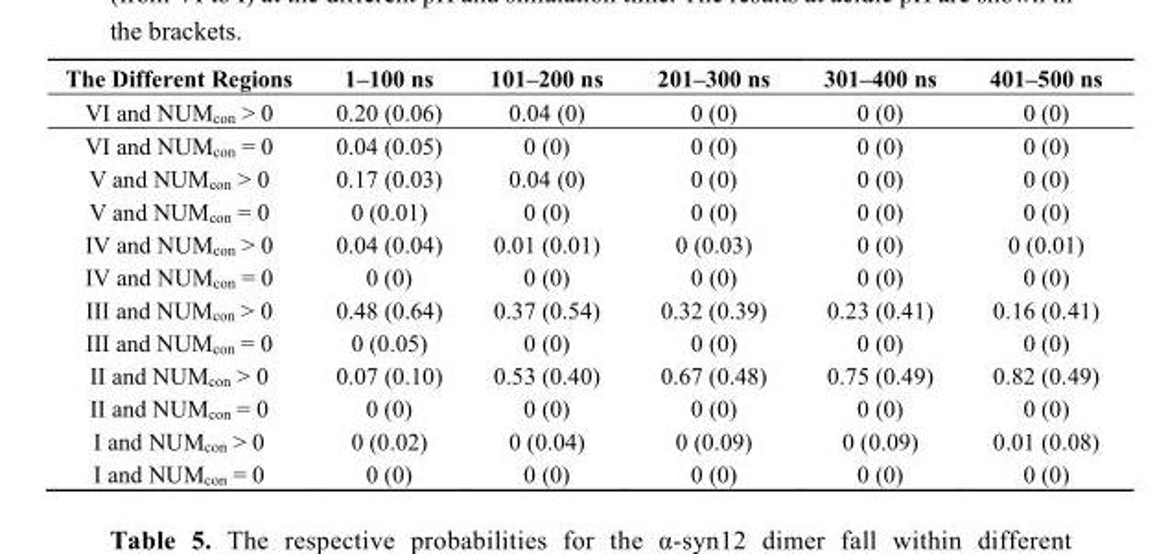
<table><thead><tr><td>The Different Regions</td><td>1–100 ns</td><td>101–200 ns</td><td>201–300 ns</td><td>301–400 ns</td><td>401–500 ns</td></tr></thead><tbody><tr><td>VI and NUM<sub>con</sub> &gt; 0</td><td>0.20 (0.06)</td><td>0.04 (0)</td><td>0 (0)</td><td>0 (0)</td><td>0 (0)</td></tr><tr><td>VI and NUM<sub>con</sub> = 0</td><td>0.04 (0.05)</td><td>0 (0)</td><td>0 (0)</td><td>0 (0)</td><td>0 (0)</td></tr><tr><td>V and NUM<sub>con</sub> &gt; 0</td><td>0.17 (0.03)</td><td>0.04 (0)</td><td>0 (0)</td><td>0 (0)</td><td>0 (0)</td></tr><tr><td>V and NUM<sub>con</sub> = 0</td><td>0 (0.01)</td><td>0 (0)</td><td>0 (0)</td><td>0 (0)</td><td>0 (0)</td></tr><tr><td>IV and NUM<sub>con</sub> &gt; 0</td><td>0.04 (0.04)</td><td>0.01 (0.01)</td><td>0 (0.03)</td><td>0 (0)</td><td>0 (0.01)</td></tr><tr><td>IV and NUM<sub>con</sub> = 0</td><td>0 (0)</td><td>0 (0)</td><td>0 (0)</td><td>0 (0)</td><td>0 (0)</td></tr><tr><td>III and NUM<sub>con</sub> &gt; 0</td><td>0.48 (0.64)</td><td>0.37 (0.54)</td><td>0.32 (0.39)</td><td>0.23 (0.41)</td><td>0.16 (0.41)</td></tr><tr><td>III and NUM<sub>con</sub> = 0</td><td>0 (0.05)</td><td>0 (0)</td><td>0 (0)</td><td>0 (0)</td><td>0 (0)</td></tr><tr><td>II and NUM<sub>con</sub> &gt; 0</td><td>0.07 (0.10)</td><td>0.53 (0.40)</td><td>0.67 (0.48)</td><td>0.75 (0.49)</td><td>0.82 (0.49)</td></tr><tr><td>II and NUM<sub>con</sub> = 0</td><td>0 (0)</td><td>0 (0)</td><td>0 (0)</td><td>0 (0)</td><td>0 (0)</td></tr><tr><td>I and NUM<sub>con</sub> &gt; 0</td><td>0 (0.02)</td><td>0 (0.04)</td><td>0 (0.09)</td><td>0 (0.09)</td><td>0.01 (0.08)</td></tr><tr><td>I and NUM<sub>con</sub> = 0</td><td>0 (0)</td><td>0 (0)</td><td>0 (0)</td><td>0 (0)</td><td>0 (0)</td></tr></tbody></table>